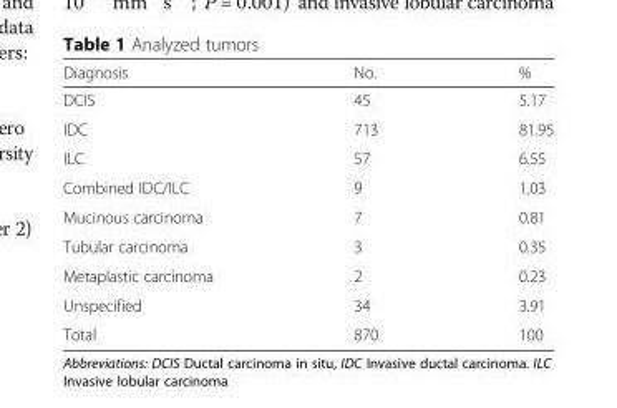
<table><thead><tr><td>Diagnosis</td><td>No.</td><td>%</td></tr></thead><tbody><tr><td>DCIS</td><td>45</td><td>5.17</td></tr><tr><td>IDC</td><td>713</td><td>81.95</td></tr><tr><td>ILC</td><td>57</td><td>6.55</td></tr><tr><td>Combined IDC/ILC</td><td>9</td><td>1.03</td></tr><tr><td>Mucinous carcinoma</td><td>7</td><td>0.81</td></tr><tr><td>Tubular carcinoma</td><td>3</td><td>0.35</td></tr><tr><td>Metaplastic carcinoma</td><td>2</td><td>0.23</td></tr><tr><td>Unspecified</td><td>34</td><td>3.91</td></tr><tr><td>Total</td><td>870</td><td>100</td></tr></tbody></table>